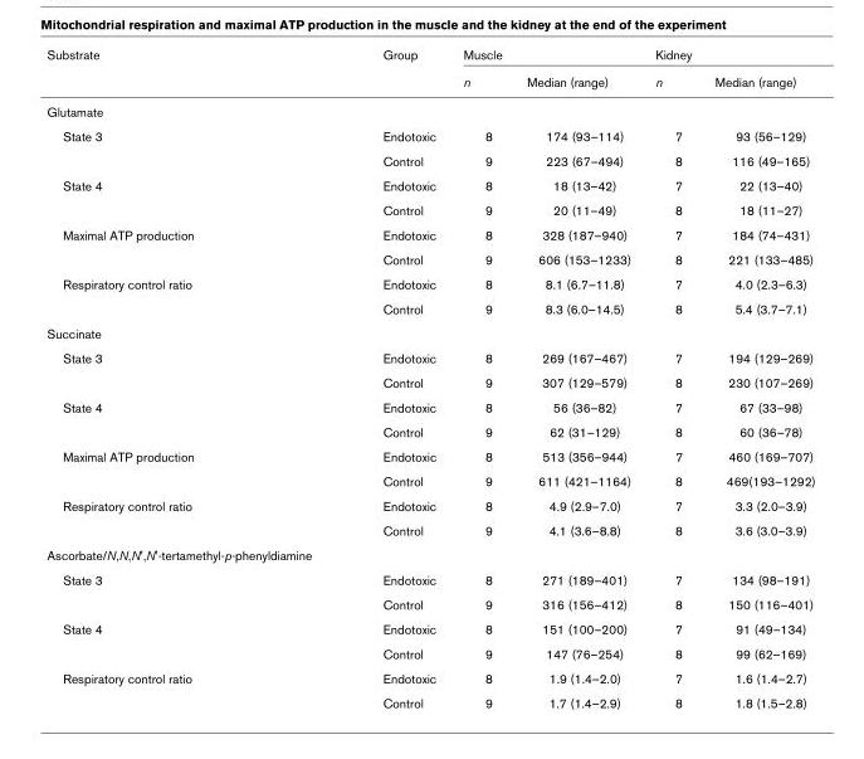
<table><thead><tr><td rowspan="2">Substrate</td><td rowspan="2">Group</td><td rowspan="2">Muscle n</td><td rowspan="2">Median (range)</td><td rowspan="2">Kidney n</td><td rowspan="2">Median (range)</td></tr><tr></tr></thead><tbody><tr><td colspan="6">Glutamate</td></tr><tr><td rowspan="2">State 3</td><td>Endotoxic</td><td>8</td><td>174 (93–114)</td><td>7</td><td>93 (56–129)</td></tr><tr><td>Control</td><td>9</td><td>223 (67–494)</td><td>8</td><td>116 (49–165)</td></tr><tr><td rowspan="2">State 4</td><td>Endotoxic</td><td>8</td><td>18 (13–42)</td><td>7</td><td>22 (13–40)</td></tr><tr><td>Control</td><td>9</td><td>20 (11–49)</td><td>8</td><td>18 (11–27)</td></tr><tr><td rowspan="2">Maximal ATP production</td><td>Endotoxic</td><td>8</td><td>328 (187–940)</td><td>7</td><td>184 (74–431)</td></tr><tr><td>Control</td><td>9</td><td>606 (153–1233)</td><td>8</td><td>221 (133–485)</td></tr><tr><td rowspan="2">Respiratory control ratio</td><td>Endotoxic</td><td>8</td><td>8.1 (6.7–11.8)</td><td>7</td><td>4.0 (2.3–6.3)</td></tr><tr><td>Control</td><td>9</td><td>8.3 (6.0–14.5)</td><td>8</td><td>5.4 (3.7–7.1)</td></tr><tr><td colspan="6">Succinate</td></tr><tr><td rowspan="2">State 3</td><td>Endotoxic</td><td>8</td><td>269 (167–467)</td><td>7</td><td>194 (129–269)</td></tr><tr><td>Control</td><td>9</td><td>307 (129–579)</td><td>8</td><td>230 (107–269)</td></tr><tr><td rowspan="2">State 4</td><td>Endotoxic</td><td>8</td><td>56 (36–82)</td><td>7</td><td>67 (33–98)</td></tr><tr><td>Control</td><td>9</td><td>62 (31–129)</td><td>8</td><td>60 (36–78)</td></tr><tr><td rowspan="2">Maximal ATP production</td><td>Endotoxic</td><td>8</td><td>513 (356–944)</td><td>7</td><td>460 (169–707)</td></tr><tr><td>Control</td><td>9</td><td>611 (421–1164)</td><td>8</td><td>469(193–1292)</td></tr><tr><td rowspan="2">Respiratory control ratio</td><td>Endotoxic</td><td>8</td><td>4.9 (2.9–7.0)</td><td>7</td><td>3.3 (2.0–3.9)</td></tr><tr><td>Control</td><td>9</td><td>4.1 (3.6–8.8)</td><td>8</td><td>3.6 (3.0–3.9)</td></tr><tr><td colspan="6">Ascorbate/N,N,N&#x27;,N&#x27;-tertamethyl-p-phenyldiamine</td></tr><tr><td rowspan="2">State 3</td><td>Endotoxic</td><td>8</td><td>271 (189–401)</td><td>7</td><td>134 (98–191)</td></tr><tr><td>Control</td><td>9</td><td>316 (156–412)</td><td>8</td><td>150 (116–401)</td></tr><tr><td rowspan="2">State 4</td><td>Endotoxic</td><td>8</td><td>151 (100–200)</td><td>7</td><td>91 (49–134)</td></tr><tr><td>Control</td><td>9</td><td>147 (76–254)</td><td>8</td><td>99 (62–169)</td></tr><tr><td rowspan="2">Respiratory control ratio</td><td>Endotoxic</td><td>8</td><td>1.9 (1.4–2.0)</td><td>7</td><td>1.6 (1.4–2.7)</td></tr><tr><td>Control</td><td>9</td><td>1.7 (1.4–2.9)</td><td>8</td><td>1.8 (1.5–2.8)</td></tr></tbody></table>